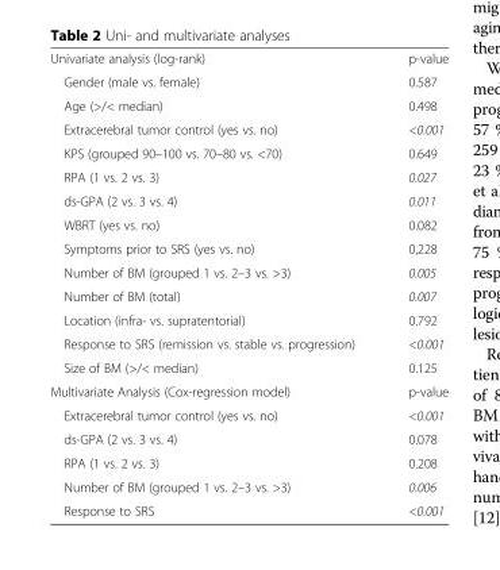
<table><tbody><tr><td>Univariate analysis (log-rank)</td><td>p-value</td></tr><tr><td>Gender (male vs. female)</td><td>0.587</td></tr><tr><td>Age (&gt;/&lt; median)</td><td>0.498</td></tr><tr><td>Extracerebral tumor control (yes vs. no)</td><td>&lt;0.001</td></tr><tr><td>KPS (grouped 90–100 vs. 70–80 vs. &lt;70)</td><td>0.649</td></tr><tr><td>RPA (1 vs. 2 vs. 3)</td><td>0.027</td></tr><tr><td>ds-GPA (2 vs. 3 vs. 4)</td><td>0.011</td></tr><tr><td>WBRT (yes vs. no)</td><td>0.082</td></tr><tr><td>Symptoms prior to SRS (yes vs. no)</td><td>0,228</td></tr><tr><td>Number of BM (grouped 1 vs. 2–3 vs. &gt;3)</td><td>0.005</td></tr><tr><td>Number of BM (total)</td><td>0.007</td></tr><tr><td>Location (infra- vs. supratentorial)</td><td>0.792</td></tr><tr><td>Response to SRS (remission vs. stable vs. progression)</td><td>&lt;0.001</td></tr><tr><td>Size of BM (&gt;/&lt; median)</td><td>0.125</td></tr><tr><td>Multivariate Analysis (Cox-regression model)</td><td>p-value</td></tr><tr><td>Extracerebral tumor control (yes vs. no)</td><td>&lt;0.001</td></tr><tr><td>ds-GPA (2 vs. 3 vs. 4)</td><td>0.078</td></tr><tr><td>RPA (1 vs. 2 vs. 3)</td><td>0.208</td></tr><tr><td>Number of BM (grouped 1 vs. 2–3 vs. &gt;3)</td><td>0.006</td></tr><tr><td>Response to SRS</td><td>&lt;0.001</td></tr></tbody></table>